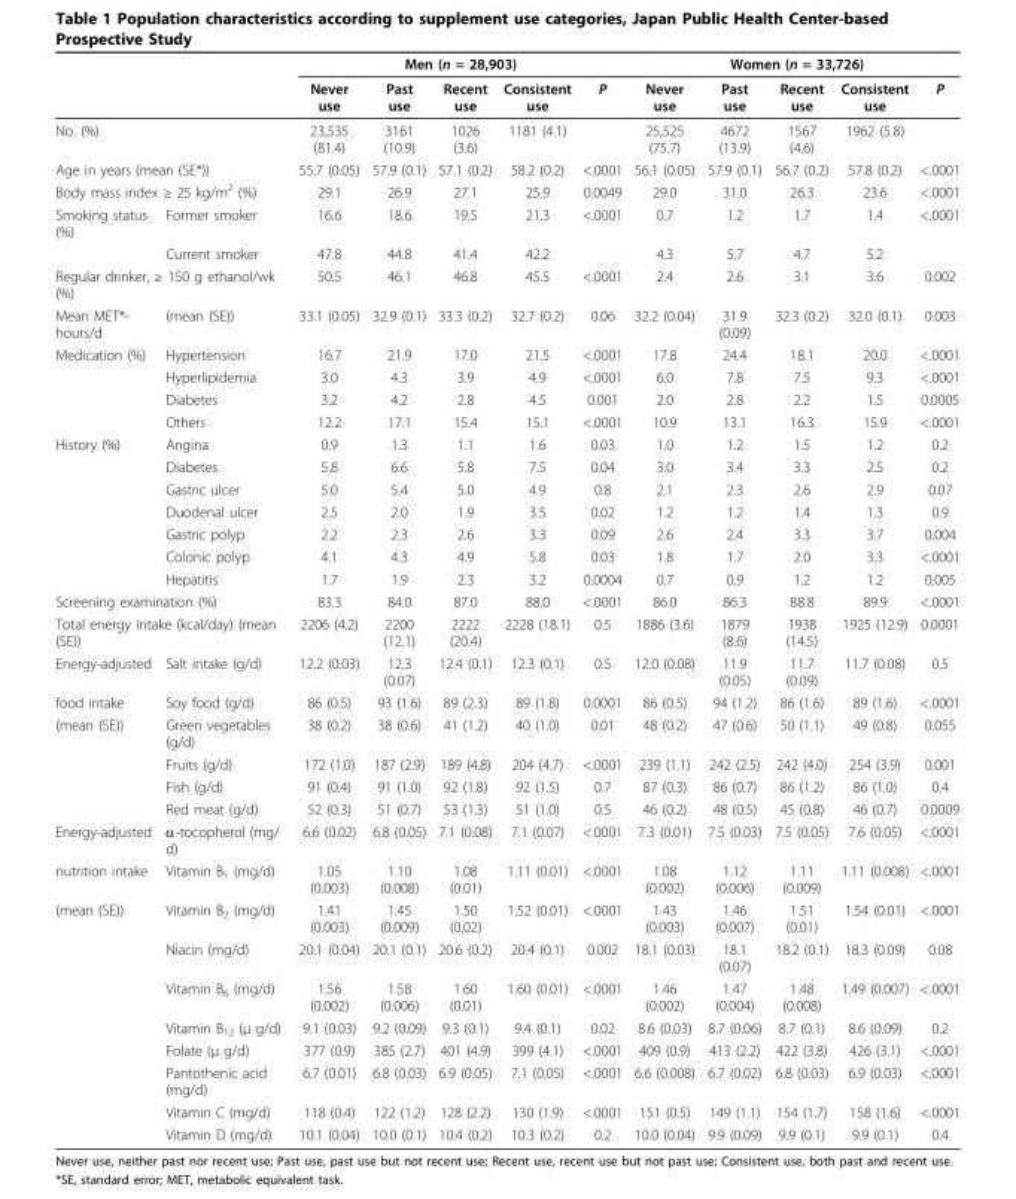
<table><thead><tr><td rowspan="2"></td><td rowspan="2"></td><td colspan="5">Men (n = 28,903)</td><td colspan="5">Women (n = 33,726)</td></tr><tr><td>Never use</td><td>Past use</td><td>Recent use</td><td>Consistent use</td><td>P</td><td>Never use</td><td>Past use</td><td>Recent use</td><td>Consistent use</td><td>P</td></tr></thead><tbody><tr><td colspan="2">No. (%)</td><td>23,535 (81.4)</td><td>3161 (10.9)</td><td>1026 (3.6)</td><td>1181 (4.1)</td><td></td><td>25,525 (75.7)</td><td>4672 (13.9)</td><td>1567 (4.6)</td><td>1962 (5.8)</td><td></td></tr><tr><td colspan="2">Age in years (mean (SE*))</td><td>55.7 (0.05)</td><td>57.9 (0.1)</td><td>57.1 (0.2)</td><td>58.2 (0.2)</td><td>&lt;.0001</td><td>56.1 (0.05)</td><td>57.9 (0.1)</td><td>56.7 (0.2)</td><td>57.8 (0.2)</td><td>&lt;.0001</td></tr><tr><td colspan="2">Body mass index ≥ 25 kg/m<sup>2</sup> (%)</td><td>29.1</td><td>26.9</td><td>27.1</td><td>25.9</td><td>0.0049</td><td>29.0</td><td>31.0</td><td>26.3</td><td>23.6</td><td>&lt;.0001</td></tr><tr><td rowspan="2">Smoking status (%)</td><td>Former smoker</td><td>16.6</td><td>18.6</td><td>19.5</td><td>21.3</td><td>&lt;.0001</td><td>0.7</td><td>1.2</td><td>1.7</td><td>1.4</td><td>&lt;.0001</td></tr><tr><td>Current smoker</td><td>47.8</td><td>44.8</td><td>41.4</td><td>42.2</td><td></td><td>4.3</td><td>5.7</td><td>4.7</td><td>5.2</td><td></td></tr><tr><td colspan="2">Regular drinker, ≥ 150 g ethanol/wk (%)</td><td>50.5</td><td>46.1</td><td>46.8</td><td>45.5</td><td>&lt;.0001</td><td>2.4</td><td>2.6</td><td>3.1</td><td>3.6</td><td>0.002</td></tr><tr><td>Mean MET*- hours/d</td><td>(mean (SE))</td><td>33.1 (0.05)</td><td>32.9 (0.1)</td><td>33.3 (0.2)</td><td>32.7 (0.2)</td><td>0.06</td><td>32.2 (0.04)</td><td>31.9 (0.09)</td><td>32.3 (0.2)</td><td>32.0 (0.1)</td><td>0.003</td></tr><tr><td rowspan="4">Medication (%)</td><td>Hypertension</td><td>16.7</td><td>21.9</td><td>17.0</td><td>21.5</td><td>&lt;.0001</td><td>17.8</td><td>24.4</td><td>18.1</td><td>20.0</td><td>&lt;.0001</td></tr><tr><td>Hyperlipidemia</td><td>3.0</td><td>4.3</td><td>3.9</td><td>4.9</td><td>&lt;.0001</td><td>6.0</td><td>7.8</td><td>7.5</td><td>9.3</td><td>&lt;.0001</td></tr><tr><td>Diabetes</td><td>3.2</td><td>4.2</td><td>2.8</td><td>4.5</td><td>0.001</td><td>2.0</td><td>2.8</td><td>2.2</td><td>1.5</td><td>0.0005</td></tr><tr><td>Others</td><td>12.2</td><td>17.1</td><td>15.4</td><td>15.1</td><td>&lt;.0001</td><td>10.9</td><td>13.1</td><td>16.3</td><td>15.9</td><td>&lt;.0001</td></tr><tr><td rowspan="7">History (%)</td><td>Angina</td><td>0.9</td><td>1.3</td><td>1.1</td><td>1.6</td><td>0.03</td><td>1.0</td><td>1.2</td><td>1.5</td><td>1.2</td><td>0.2</td></tr><tr><td>Diabetes</td><td>5.8</td><td>6.6</td><td>5.8</td><td>7.5</td><td>0.04</td><td>3.0</td><td>3.4</td><td>3.3</td><td>2.5</td><td>0.2</td></tr><tr><td>Gastric ulcer</td><td>5.0</td><td>5.4</td><td>5.0</td><td>4.9</td><td>0.8</td><td>2.1</td><td>2.3</td><td>2.6</td><td>2.9</td><td>0.07</td></tr><tr><td>Duodenal ulcer</td><td>2.5</td><td>2.0</td><td>1.9</td><td>3.5</td><td>0.02</td><td>1.2</td><td>1.2</td><td>1.4</td><td>1.3</td><td>0.9</td></tr><tr><td>Gastric polyp</td><td>2.2</td><td>2.3</td><td>2.6</td><td>3.3</td><td>0.09</td><td>2.6</td><td>2.4</td><td>3.3</td><td>3.7</td><td>0.004</td></tr><tr><td>Colonic polyp</td><td>4.1</td><td>4.3</td><td>4.9</td><td>5.8</td><td>0.03</td><td>1.8</td><td>1.7</td><td>2.0</td><td>3.3</td><td>&lt;.0001</td></tr><tr><td>Hepatitis</td><td>1.7</td><td>1.9</td><td>2.3</td><td>3.2</td><td>0.0004</td><td>0.7</td><td>0.9</td><td>1.2</td><td>1.2</td><td>0.005</td></tr><tr><td colspan="2">Screening examination (%)</td><td>83.3</td><td>84.0</td><td>87.0</td><td>88.0</td><td>&lt;.0001</td><td>86.0</td><td>86.3</td><td>88.8</td><td>89.9</td><td>&lt;.0001</td></tr><tr><td colspan="2">Total energy intake (kcal/day) (mean (SE))</td><td>2206 (4.2)</td><td>2200 (12.1)</td><td>2222 (20.4)</td><td>2228 (18.1)</td><td>0.5</td><td>1886 (3.6)</td><td>1879 (8.6)</td><td>1938 (14.5)</td><td>1925 (12.9)</td><td>0.0001</td></tr><tr><td>Energy-adjusted</td><td>Salt intake (g/d)</td><td>12.2 (0.03)</td><td>12.3 (0.07)</td><td>12.4 (0.1)</td><td>12.3 (0.1)</td><td>0.5</td><td>12.0 (0.08)</td><td>11.9 (0.05)</td><td>11.7 (0.09)</td><td>11.7 (0.08)</td><td>0.5</td></tr><tr><td>food intake</td><td>Soy food (g/d)</td><td>86 (0.5)</td><td>93 (1.6)</td><td>89 (2.3)</td><td>89 (1.8)</td><td>0.0001</td><td>86 (0.5)</td><td>94 (1.2)</td><td>86 (1.6)</td><td>89 (1.6)</td><td>&lt;.0001</td></tr><tr><td rowspan="4">(mean (SE))</td><td>Green vegetables (g/d)</td><td>38 (0.2)</td><td>38 (0.6)</td><td>41 (1.2)</td><td>40 (1.0)</td><td>0.01</td><td>48 (0.2)</td><td>47 (0.6)</td><td>50 (1.1)</td><td>49 (0.8)</td><td>0.055</td></tr><tr><td>Fruits (g/d)</td><td>172 (1.0)</td><td>187 (2.9)</td><td>189 (4.8)</td><td>204 (4.7)</td><td>&lt;.0001</td><td>239 (1.1)</td><td>242 (2.5)</td><td>242 (4.0)</td><td>254 (3.9)</td><td>0.001</td></tr><tr><td>Fish (g/d)</td><td>91 (0.4)</td><td>91 (1.0)</td><td>92 (1.8)</td><td>92 (1.5)</td><td>0.7</td><td>87 (0.3)</td><td>86 (0.7)</td><td>86 (1.2)</td><td>86 (1.0)</td><td>0.4</td></tr><tr><td>Red meat (g/d)</td><td>52 (0.3)</td><td>51 (0.7)</td><td>53 (1.3)</td><td>51 (1.0)</td><td>0.5</td><td>46 (0.2)</td><td>48 (0.5)</td><td>45 (0.8)</td><td>46 (0.7)</td><td>0.0009</td></tr><tr><td>Energy-adjusted</td><td>α-tocopherol (mg/ d)</td><td>6.6 (0.02)</td><td>6.8 (0.05)</td><td>7.1 (0.08)</td><td>7.1 (0.07)</td><td>&lt;.0001</td><td>7.3 (0.01)</td><td>7.5 (0.03)</td><td>7.5 (0.05)</td><td>7.6 (0.05)</td><td>&lt;.0001</td></tr><tr><td>nutrition intake</td><td>Vitamin B<sub>1</sub> (mg/d)</td><td>1.05 (0.003)</td><td>1.10 (0.008)</td><td>1.08 (0.01)</td><td>1.11 (0.01)</td><td>&lt;.0001</td><td>1.08 (0.002)</td><td>1.12 (0.006)</td><td>1.11 (0.009)</td><td>1.11 (0.008)</td><td>&lt;.0001</td></tr><tr><td rowspan="8">(mean (SE))</td><td>Vitamin B<sub>2</sub> (mg/d)</td><td>1.41 (0.003)</td><td>1.45 (0.009)</td><td>1.50 (0.02)</td><td>1.52 (0.01)</td><td>&lt;.0001</td><td>1.43 (0.003)</td><td>1.46 (0.007)</td><td>1.51 (0.01)</td><td>1.54 (0.01)</td><td>&lt;.0001</td></tr><tr><td>Niacin (mg/d)</td><td>20.1 (0.04)</td><td>20.1 (0.1)</td><td>20.6 (0.2)</td><td>20.4 (0.1)</td><td>0.002</td><td>18.1 (0.03)</td><td>18.1 (0.07)</td><td>18.2 (0.1)</td><td>18.3 (0.09)</td><td>0.08</td></tr><tr><td>Vitamin B<sub>6</sub> (mg/d)</td><td>1.56 (0.002)</td><td>1.58 (0.006)</td><td>1.60 (0.01)</td><td>1.60 (0.01)</td><td>&lt;.0001</td><td>1.46 (0.002)</td><td>1.47 (0.004)</td><td>1.48 (0.008)</td><td>1.49 (0.007)</td><td>&lt;.0001</td></tr><tr><td>Vitamin B<sub>12</sub> (μ g/d)</td><td>9.1 (0.03)</td><td>9.2 (0.09)</td><td>9.3 (0.1)</td><td>9.4 (0.1)</td><td>0.02</td><td>8.6 (0.03)</td><td>8.7 (0.06)</td><td>8.7 (0.1)</td><td>8.6 (0.09)</td><td>0.2</td></tr><tr><td>Folate (μ g/d)</td><td>377 (0.9)</td><td>385 (2.7)</td><td>401 (4.9)</td><td>399 (4.1)</td><td>&lt;.0001</td><td>409 (0.9)</td><td>413 (2.2)</td><td>422 (3.8)</td><td>426 (3.1)</td><td>&lt;.0001</td></tr><tr><td>Pantothenic acid (mg/d)</td><td>6.7 (0.01)</td><td>6.8 (0.03)</td><td>6.9 (0.05)</td><td>7.1 (0.05)</td><td>&lt;.0001</td><td>6.6 (0.008)</td><td>6.7 (0.02)</td><td>6.8 (0.03)</td><td>6.9 (0.03)</td><td>&lt;.0001</td></tr><tr><td>Vitamin C (mg/d)</td><td>118 (0.4)</td><td>122 (1.2)</td><td>128 (2.2)</td><td>130 (1.9)</td><td>&lt;.0001</td><td>151 (0.5)</td><td>149 (1.1)</td><td>154 (1.7)</td><td>158 (1.6)</td><td>&lt;.0001</td></tr><tr><td>Vitamin D (mg/d)</td><td>10.1 (0.04)</td><td>10.0 (0.1)</td><td>10.4 (0.2)</td><td>10.3 (0.2)</td><td>0.2</td><td>10.0 (0.04)</td><td>9.9 (0.09)</td><td>9.9 (0.1)</td><td>9.9 (0.1)</td><td>0.4</td></tr></tbody></table>